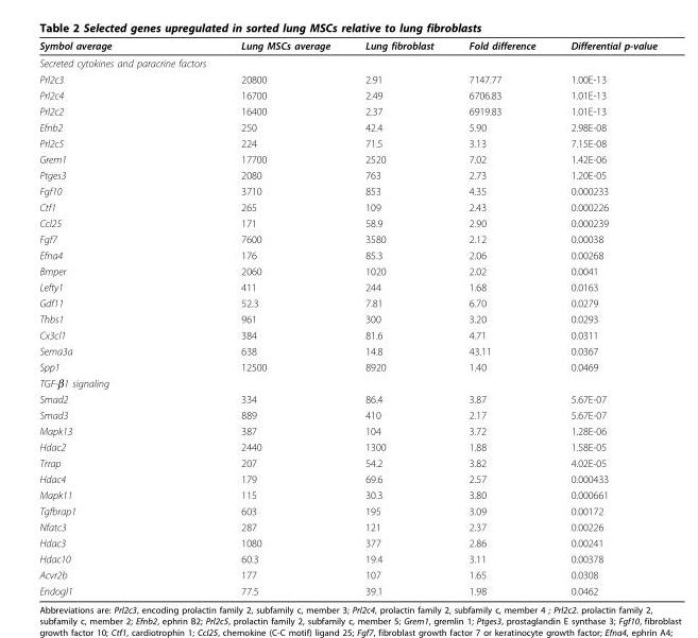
<table><thead><tr><td>Symbol average</td><td>Lung MSCs average</td><td>Lung fibroblast</td><td>Fold difference</td><td>Differential p-value</td></tr></thead><tbody><tr><td colspan="5">Secreted cytokines and paracrine factors</td></tr><tr><td>Prl2c3</td><td>20800</td><td>2.91</td><td>7147.77</td><td>1.00E-13</td></tr><tr><td>Prl2c4</td><td>16700</td><td>2.49</td><td>6706.83</td><td>1.01E-13</td></tr><tr><td>Prl2c2</td><td>16400</td><td>2.37</td><td>6919.83</td><td>1.01E-13</td></tr><tr><td>Efnb2</td><td>250</td><td>42.4</td><td>5.90</td><td>2.98E-08</td></tr><tr><td>Prl2c5</td><td>224</td><td>71.5</td><td>3.13</td><td>7.15E-08</td></tr><tr><td>Grem1</td><td>17700</td><td>2520</td><td>7.02</td><td>1.42E-06</td></tr><tr><td>Ptges3</td><td>2080</td><td>763</td><td>2.73</td><td>1.20E-05</td></tr><tr><td>Fgf10</td><td>3710</td><td>853</td><td>4.35</td><td>0.000233</td></tr><tr><td>Ctf1</td><td>265</td><td>109</td><td>2.43</td><td>0.000226</td></tr><tr><td>Ccl25</td><td>171</td><td>58.9</td><td>2.90</td><td>0.000239</td></tr><tr><td>Fgf7</td><td>7600</td><td>3580</td><td>2.12</td><td>0.00038</td></tr><tr><td>Efna4</td><td>176</td><td>85.3</td><td>2.06</td><td>0.00268</td></tr><tr><td>Bmper</td><td>2060</td><td>1020</td><td>2.02</td><td>0.0041</td></tr><tr><td>Lefty1</td><td>411</td><td>244</td><td>1.68</td><td>0.0163</td></tr><tr><td>Gdf11</td><td>52.3</td><td>7.81</td><td>6.70</td><td>0.0279</td></tr><tr><td>Thbs1</td><td>961</td><td>300</td><td>3.20</td><td>0.0293</td></tr><tr><td>Cx3cl1</td><td>384</td><td>81.6</td><td>4.71</td><td>0.0311</td></tr><tr><td>Sema3a</td><td>638</td><td>14.8</td><td>43.11</td><td>0.0367</td></tr><tr><td>Spp1</td><td>12500</td><td>8920</td><td>1.40</td><td>0.0469</td></tr><tr><td colspan="5">TGF-β1 signaling</td></tr><tr><td>Smad2</td><td>334</td><td>86.4</td><td>3.87</td><td>5.67E-07</td></tr><tr><td>Smad3</td><td>889</td><td>410</td><td>2.17</td><td>5.67E-07</td></tr><tr><td>Mapk13</td><td>387</td><td>104</td><td>3.72</td><td>1.28E-06</td></tr><tr><td>Hdac2</td><td>2440</td><td>1300</td><td>1.88</td><td>1.58E-05</td></tr><tr><td>Trrap</td><td>207</td><td>54.2</td><td>3.82</td><td>4.02E-05</td></tr><tr><td>Hdac4</td><td>179</td><td>69.6</td><td>2.57</td><td>0.000433</td></tr><tr><td>Mapk11</td><td>115</td><td>30.3</td><td>3.80</td><td>0.000661</td></tr><tr><td>Tgfbrap1</td><td>603</td><td>195</td><td>3.09</td><td>0.00172</td></tr><tr><td>Nfatc3</td><td>287</td><td>121</td><td>2.37</td><td>0.00226</td></tr><tr><td>Hdac3</td><td>1080</td><td>377</td><td>2.86</td><td>0.00241</td></tr><tr><td>Hdac10</td><td>60.3</td><td>19.4</td><td>3.11</td><td>0.00378</td></tr><tr><td>Acvr2b</td><td>177</td><td>107</td><td>1.65</td><td>0.0308</td></tr><tr><td>Endogl1</td><td>77.5</td><td>39.1</td><td>1.98</td><td>0.0462</td></tr></tbody></table>